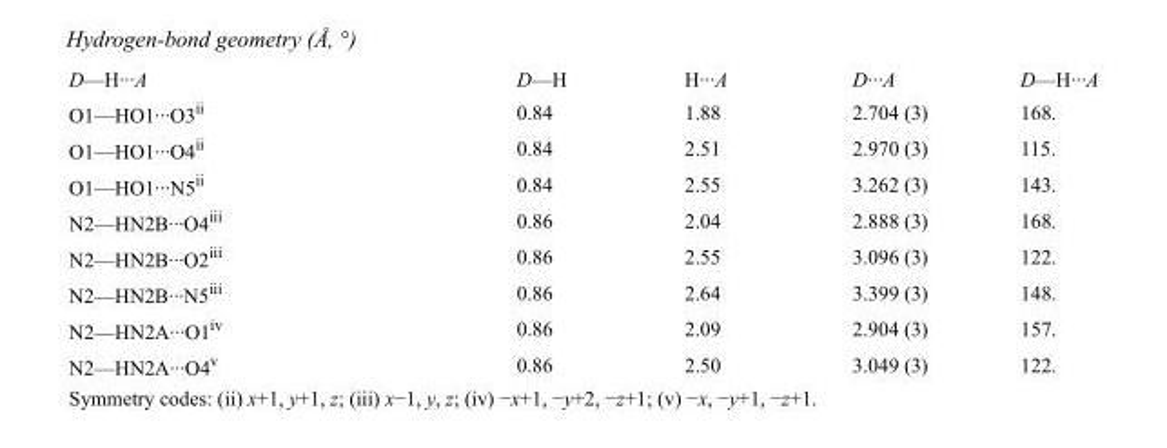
<table><tbody><tr><td>D—H···A</td><td>D—H</td><td>H···A</td><td>D···A</td><td>D—H···A</td></tr><tr><td>O1—HO1···O3<sup>ii</sup></td><td>0.84</td><td>1.88</td><td>2.704 (3)</td><td>168.</td></tr><tr><td>O1—HO1···O4<sup>ii</sup></td><td>0.84</td><td>2.51</td><td>2.970 (3)</td><td>115.</td></tr><tr><td>O1—HO1···N5<sup>ii</sup></td><td>0.84</td><td>2.55</td><td>3.262 (3)</td><td>143.</td></tr><tr><td>N2—HN2B···O4<sup>iii</sup></td><td>0.86</td><td>2.04</td><td>2.888 (3)</td><td>168.</td></tr><tr><td>N2—HN2B···O2<sup>iii</sup></td><td>0.86</td><td>2.55</td><td>3.096 (3)</td><td>122.</td></tr><tr><td>N2—HN2B···N5<sup>iii</sup></td><td>0.86</td><td>2.64</td><td>3.399 (3)</td><td>148.</td></tr><tr><td>N2—HN2A···O1<sup>iv</sup></td><td>0.86</td><td>2.09</td><td>2.904 (3)</td><td>157.</td></tr><tr><td>N2—HN2A···O4<sup>v</sup></td><td>0.86</td><td>2.50</td><td>3.049 (3)</td><td>122.</td></tr></tbody></table>